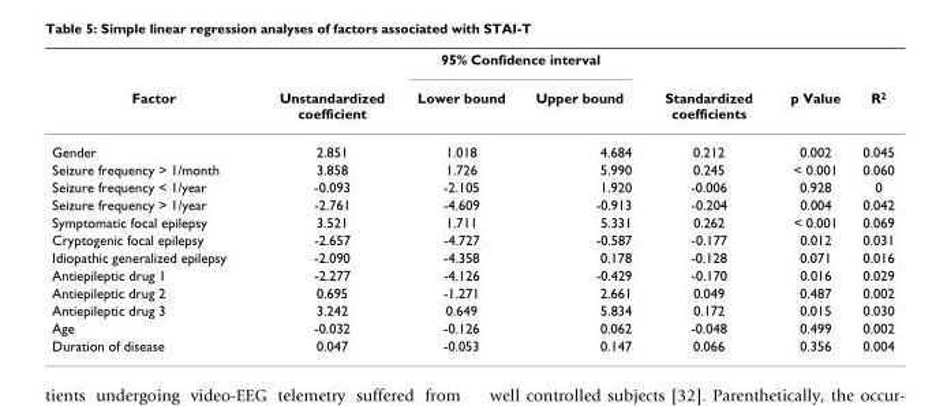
<table><thead><tr><td rowspan="2">Factor</td><td rowspan="2">Unstandardized coefficient</td><td colspan="2">95% Confidence interval</td><td rowspan="2">Standardized coefficients</td><td rowspan="2">p Value</td><td rowspan="2">R<sup>2</sup></td></tr><tr><td>Lower bound</td><td>Upper bound</td></tr></thead><tbody><tr><td>Gender</td><td>2.851</td><td>1.018</td><td>4.684</td><td>0.212</td><td>0.002</td><td>0.045</td></tr><tr><td>Seizure frequency &gt; 1/month</td><td>3.858</td><td>1.726</td><td>5.990</td><td>0.245</td><td>&lt; 0.001</td><td>0.060</td></tr><tr><td>Seizure frequency &lt; 1/year</td><td>-0.093</td><td>-2.105</td><td>1.920</td><td>-0.006</td><td>0.928</td><td>0</td></tr><tr><td>Seizure frequency &gt; 1/year</td><td>-2.761</td><td>-4.609</td><td>-0.913</td><td>-0.204</td><td>0.004</td><td>0.042</td></tr><tr><td>Symptomatic focal epilepsy</td><td>3.521</td><td>1.711</td><td>5.331</td><td>0.262</td><td>&lt; 0.001</td><td>0.069</td></tr><tr><td>Cryptogenic focal epilepsy</td><td>-2.657</td><td>-4.727</td><td>-0.587</td><td>-0.177</td><td>0.012</td><td>0.031</td></tr><tr><td>Idiopathic generalized epilepsy</td><td>-2.090</td><td>-4.358</td><td>0.178</td><td>-0.128</td><td>0.071</td><td>0.016</td></tr><tr><td>Antiepileptic drug 1</td><td>-2.277</td><td>-4.126</td><td>-0.429</td><td>-0.170</td><td>0.016</td><td>0.029</td></tr><tr><td>Antiepileptic drug 2</td><td>0.695</td><td>-1.271</td><td>2.661</td><td>0.049</td><td>0.487</td><td>0.002</td></tr><tr><td>Antiepileptic drug 3</td><td>3.242</td><td>0.649</td><td>5.834</td><td>0.172</td><td>0.015</td><td>0.030</td></tr><tr><td>Age</td><td>-0.032</td><td>-0.126</td><td>0.062</td><td>-0.048</td><td>0.499</td><td>0.002</td></tr><tr><td>Duration of disease</td><td>0.047</td><td>-0.053</td><td>0.147</td><td>0.066</td><td>0.356</td><td>0.004</td></tr></tbody></table>